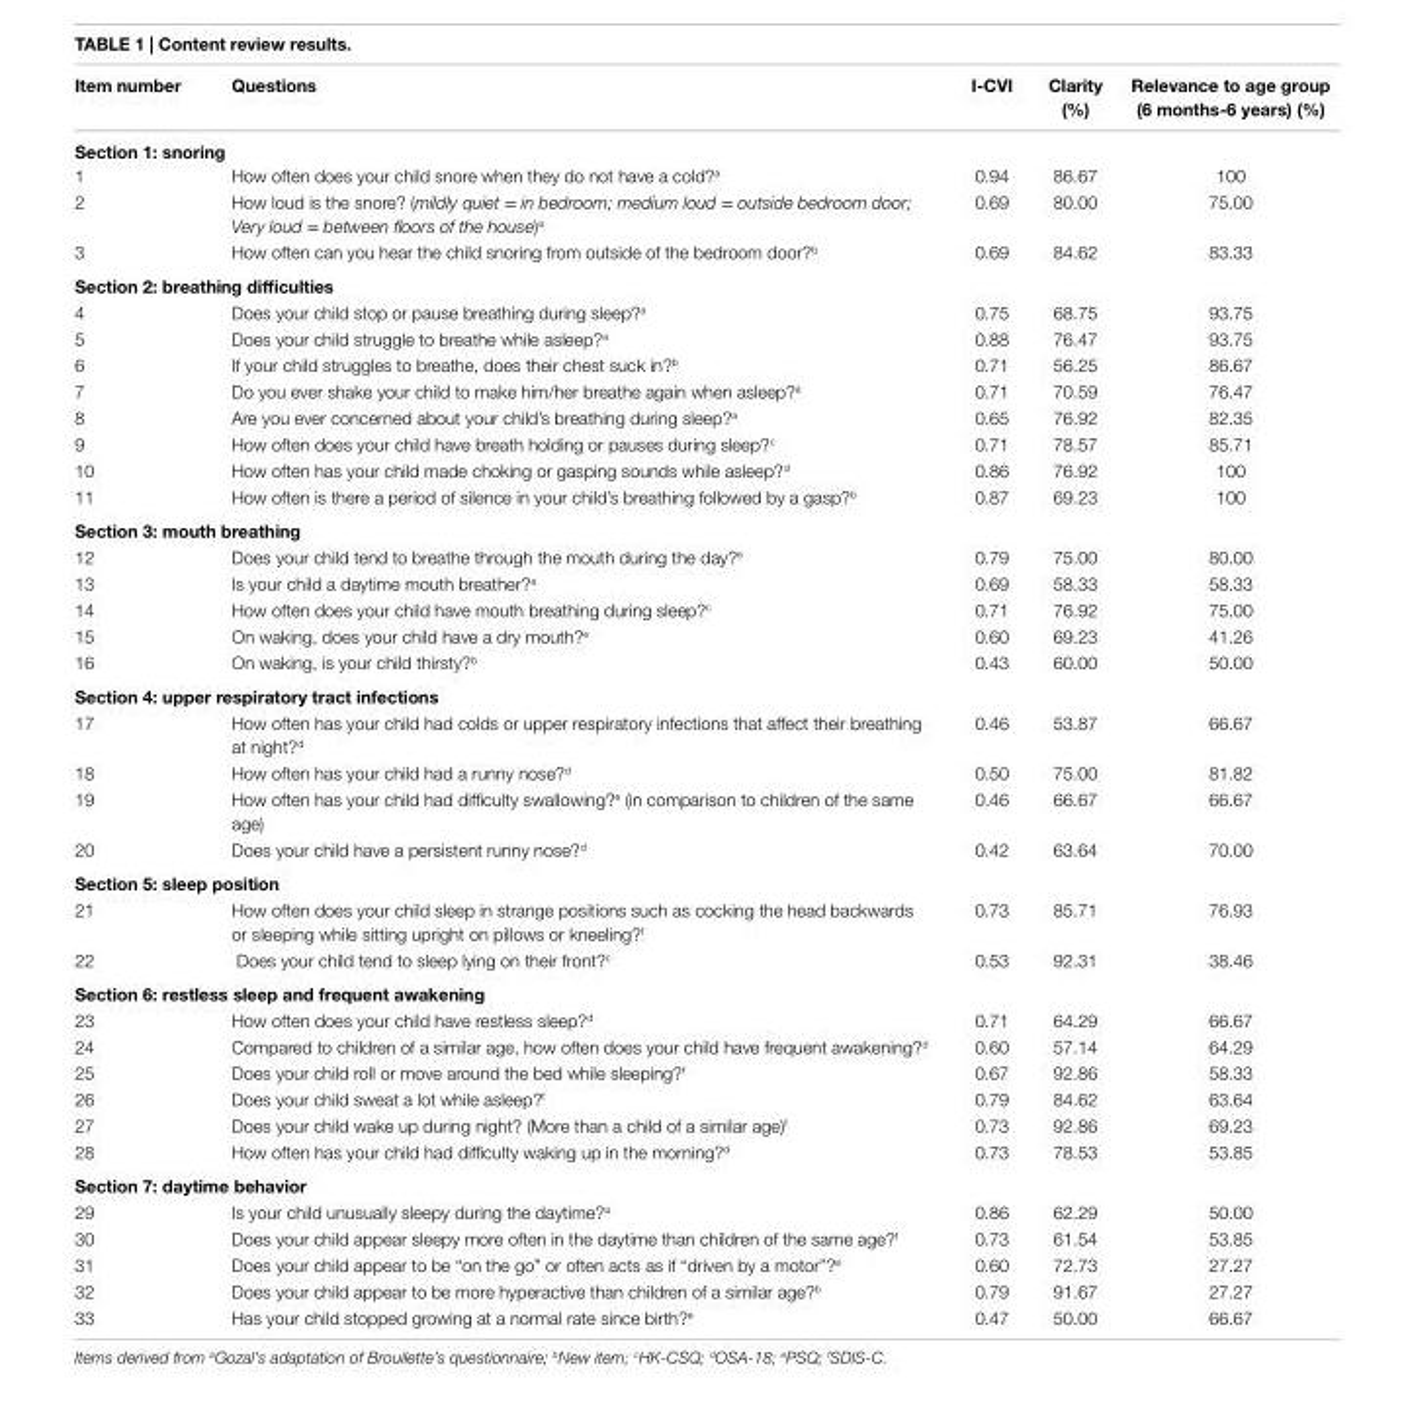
<table><thead><tr><td>item number</td><td>Questions</td><td>i-cVi</td><td>clarity (%)</td><td>relevance to age group (6 months-6 years) (%)</td></tr></thead><tbody><tr><td colspan="5">section 1: snoring</td></tr><tr><td>1</td><td>How often does your child snore when they do not have a cold?<sup>a</sup></td><td>0.94</td><td>86.67</td><td>100</td></tr><tr><td>2</td><td>How loud is the snore? (mildly quiet = in bedroom; medium loud = outside bedroom door; Very loud = between floors of the house)<sup>a</sup></td><td>0.69</td><td>80.00</td><td>75.00</td></tr><tr><td>3</td><td>How often can you hear the child snoring from outside of the bedroom door?<sup>b</sup></td><td>0.69</td><td>84.62</td><td>83.33</td></tr><tr><td colspan="5">section 2: breathing difficulties</td></tr><tr><td>4</td><td>Does your child stop or pause breathing during sleep?<sup>a</sup></td><td>0.75</td><td>68.75</td><td>93.75</td></tr><tr><td>5</td><td>Does your child struggle to breathe while asleep?<sup>a</sup></td><td>0.88</td><td>76.47</td><td>93.75</td></tr><tr><td>6</td><td>If your child struggles to breathe, does their chest suck in?<sup>b</sup></td><td>0.71</td><td>56.25</td><td>86.67</td></tr><tr><td>7</td><td>Do you ever shake your child to make him/her breathe again when asleep?<sup>a</sup></td><td>0.71</td><td>70.59</td><td>76.47</td></tr><tr><td>8</td><td>Are you ever concerned about your child’s breathing during sleep?<sup>a</sup></td><td>0.65</td><td>76.92</td><td>82.35</td></tr><tr><td>9</td><td>How often does your child have breath holding or pauses during sleep?<sup>c</sup></td><td>0.71</td><td>78.57</td><td>85.71</td></tr><tr><td>10</td><td>How often has your child made choking or gasping sounds while asleep?<sup>d</sup></td><td>0.86</td><td>76.92</td><td>100</td></tr><tr><td>11</td><td>How often is there a period of silence in your child’s breathing followed by a gasp?<sup>b</sup></td><td>0.87</td><td>69.23</td><td>100</td></tr><tr><td colspan="5">section 3: mouth breathing</td></tr><tr><td>12</td><td>Does your child tend to breathe through the mouth during the day?<sup>e</sup></td><td>0.79</td><td>75.00</td><td>80.00</td></tr><tr><td>13</td><td>Is your child a daytime mouth breather?<sup>a</sup></td><td>0.69</td><td>58.33</td><td>58.33</td></tr><tr><td>14</td><td>How often does your child have mouth breathing during sleep?<sup>c</sup></td><td>0.71</td><td>76.92</td><td>75.00</td></tr><tr><td>15</td><td>On waking, does your child have a dry mouth?<sup>e</sup></td><td>0.60</td><td>69.23</td><td>41.26</td></tr><tr><td>16</td><td>On waking, is your child thirsty?<sup>b</sup></td><td>0.43</td><td>60.00</td><td>50.00</td></tr><tr><td colspan="5">section 4: upper respiratory tract infections</td></tr><tr><td>17</td><td>How often has your child had colds or upper respiratory infections that affect their breathing at night?<sup>d</sup></td><td>0.46</td><td>53.87</td><td>66.67</td></tr><tr><td>18</td><td>How often has your child had a runny nose?<sup>d</sup></td><td>0.50</td><td>75.00</td><td>81.82</td></tr><tr><td>19</td><td>How often has your child had difficulty swallowing?<sup>e</sup> (in comparison to children of the same age)</td><td>0.46</td><td>66.67</td><td>66.67</td></tr><tr><td>20</td><td>Does your child have a persistent runny nose?<sup>d</sup></td><td>0.42</td><td>63.64</td><td>70.00</td></tr><tr><td colspan="5">section 5: sleep position</td></tr><tr><td>21</td><td>How often does your child sleep in strange positions such as cocking the head backwards or sleeping while sitting upright on pillows or kneeling?<sup>f</sup></td><td>0.73</td><td>85.71</td><td>76.93</td></tr><tr><td>22</td><td>Does your child tend to sleep lying on their front?<sup>c</sup></td><td>0.53</td><td>92.31</td><td>38.46</td></tr><tr><td colspan="5">section 6: restless sleep and frequent awakening</td></tr><tr><td>23</td><td>How often does your child have restless sleep?<sup>d</sup></td><td>0.71</td><td>64.29</td><td>66.67</td></tr><tr><td>24</td><td>Compared to children of a similar age, how often does your child have frequent awakening?<sup>d</sup></td><td>0.60</td><td>57.14</td><td>64.29</td></tr><tr><td>25</td><td>Does your child roll or move around the bed while sleeping?<sup>f</sup></td><td>0.67</td><td>92.86</td><td>58.33</td></tr><tr><td>26</td><td>Does your child sweat a lot while asleep?<sup>f</sup></td><td>0.79</td><td>84.62</td><td>63.64</td></tr><tr><td>27</td><td>Does your child wake up during night? (More than a child of a similar age)<sup>f</sup></td><td>0.73</td><td>92.86</td><td>69.23</td></tr><tr><td>28</td><td>How often has your child had difficulty waking up in the morning?<sup>d</sup></td><td>0.73</td><td>78.53</td><td>53.85</td></tr><tr><td colspan="5">section 7: daytime behavior</td></tr><tr><td>29</td><td>Is your child unusually sleepy during the daytime?<sup>a</sup></td><td>0.86</td><td>62.29</td><td>50.00</td></tr><tr><td>30</td><td>Does your child appear sleepy more often in the daytime than children of the same age?<sup>f</sup></td><td>0.73</td><td>61.54</td><td>53.85</td></tr><tr><td>31</td><td>Does your child appear to be “on the go” or often acts as if “driven by a motor”?<sup>e</sup></td><td>0.60</td><td>72.73</td><td>27.27</td></tr><tr><td>32</td><td>Does your child appear to be more hyperactive than children of a similar age?<sup>b</sup></td><td>0.79</td><td>91.67</td><td>27.27</td></tr><tr><td>33</td><td>Has your child stopped growing at a normal rate since birth?<sup>e</sup></td><td>0.47</td><td>50.00</td><td>66.67</td></tr></tbody></table>